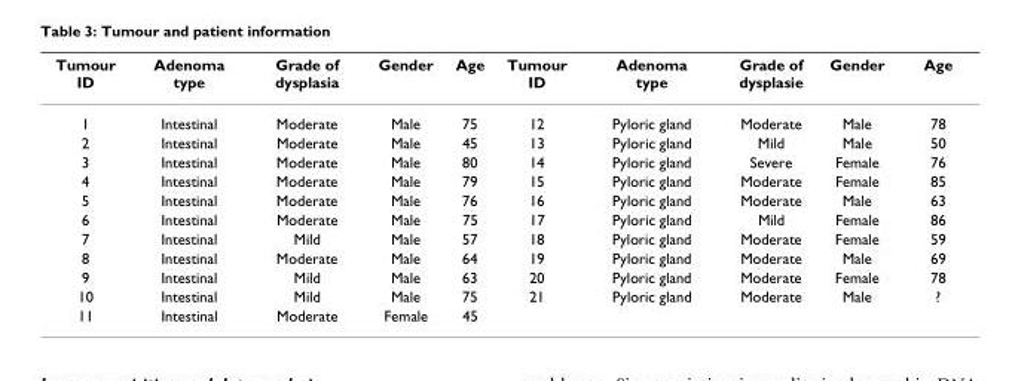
<table><thead><tr><td>Tumour ID</td><td>Adenoma type</td><td>Grade of dysplasia</td><td>Gender</td><td>Age</td><td>Tumour ID</td><td>Adenoma type</td><td>Grade of dysplasie</td><td>Gender</td><td>Age</td></tr></thead><tbody><tr><td>1</td><td>Intestinal</td><td>Moderate</td><td>Male</td><td>75</td><td>12</td><td>Pyloric gland</td><td>Moderate</td><td>Male</td><td>78</td></tr><tr><td>2</td><td>Intestinal</td><td>Moderate</td><td>Male</td><td>45</td><td>13</td><td>Pyloric gland</td><td>Mild</td><td>Male</td><td>50</td></tr><tr><td>3</td><td>Intestinal</td><td>Moderate</td><td>Male</td><td>80</td><td>14</td><td>Pyloric gland</td><td>Severe</td><td>Female</td><td>76</td></tr><tr><td>4</td><td>Intestinal</td><td>Moderate</td><td>Male</td><td>79</td><td>15</td><td>Pyloric gland</td><td>Moderate</td><td>Female</td><td>85</td></tr><tr><td>5</td><td>Intestinal</td><td>Moderate</td><td>Male</td><td>76</td><td>16</td><td>Pyloric gland</td><td>Moderate</td><td>Male</td><td>63</td></tr><tr><td>6</td><td>Intestinal</td><td>Moderate</td><td>Male</td><td>75</td><td>17</td><td>Pyloric gland</td><td>Mild</td><td>Female</td><td>86</td></tr><tr><td>7</td><td>Intestinal</td><td>Mild</td><td>Male</td><td>57</td><td>18</td><td>Pyloric gland</td><td>Moderate</td><td>Female</td><td>59</td></tr><tr><td>8</td><td>Intestinal</td><td>Moderate</td><td>Male</td><td>64</td><td>19</td><td>Pyloric gland</td><td>Moderate</td><td>Male</td><td>69</td></tr><tr><td>9</td><td>Intestinal</td><td>Mild</td><td>Male</td><td>63</td><td>20</td><td>Pyloric gland</td><td>Moderate</td><td>Female</td><td>78</td></tr><tr><td>10</td><td>Intestinal</td><td>Mild</td><td>Male</td><td>75</td><td>21</td><td>Pyloric gland</td><td>Moderate</td><td>Male</td><td>?</td></tr><tr><td>11</td><td>Intestinal</td><td>Moderate</td><td>Female</td><td>45</td><td></td><td></td><td></td><td></td><td></td></tr></tbody></table>